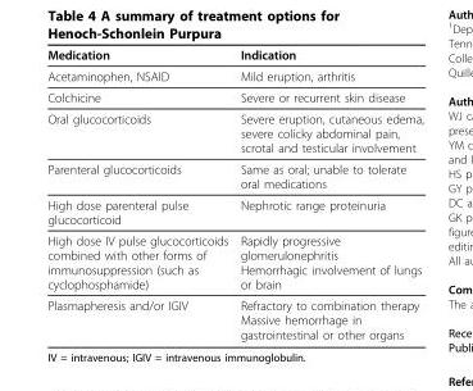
<table><thead><tr><td>Medication</td><td>Indication</td></tr></thead><tbody><tr><td>Acetaminophen, NSAID</td><td>Mild eruption, arthritis</td></tr><tr><td>Colchicine</td><td>Severe or recurrent skin disease</td></tr><tr><td>Oral glucocorticoids</td><td>Severe eruption, cutaneous edema, severe colicky abdominal pain, scrotal and testicular involvement</td></tr><tr><td>Parenteral glucocorticoids</td><td>Same as oral; unable to tolerate oral medications</td></tr><tr><td>High dose parenteral pulse glucocorticoid</td><td>Nephrotic range proteinuria</td></tr><tr><td>High dose IV pulse glucocorticoids combined with other forms of immunosuppression (such as cyclophosphamide)</td><td>Rapidly progressive glomerulonephritis Hemorrhagic involvement of lungs or brain</td></tr><tr><td>Plasmapheresis and/or IGIV</td><td>Refractory to combination therapy Massive hemorrhage in gastrointestinal or other organs</td></tr></tbody></table>